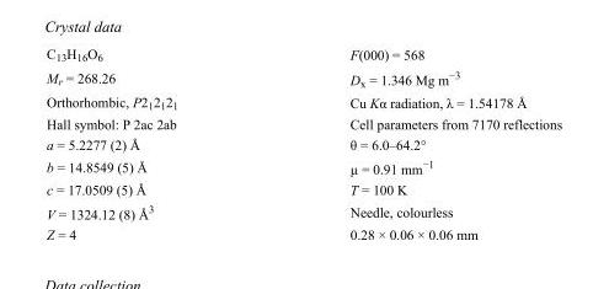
<table><tbody><tr><td>C<sub>13</sub>H<sub>16</sub>O<sub>6</sub></td><td>F(000) = 568</td></tr><tr><td>M<sub>r</sub> = 268.26</td><td>D<sub>x</sub> = 1.346 Mg m<sup>−3</sup></td></tr><tr><td>Orthorhombic, P2<sub>1</sub>2<sub>1</sub>2<sub>1</sub></td><td>Cu Kα radiation, λ = 1.54178 Å</td></tr><tr><td>Hall symbol: P 2ac 2ab</td><td>Cell parameters from 7170 reflections</td></tr><tr><td>a = 5.2277 (2) Å</td><td>θ = 6.0–64.2°</td></tr><tr><td>b = 14.8549 (5) Å</td><td>µ = 0.91 mm<sup>−1</sup></td></tr><tr><td>c = 17.0509 (5) Å</td><td>T = 100 K</td></tr><tr><td>V = 1324.12 (8) Å<sup>3</sup></td><td>Needle, colourless</td></tr><tr><td>Z = 4</td><td>0.28 × 0.06 × 0.06 mm</td></tr></tbody></table>